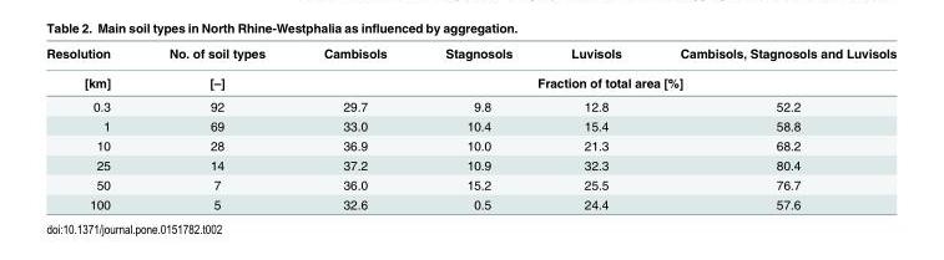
<table><thead><tr><td rowspan="2">Resolution [km]</td><td rowspan="2">No. of soil types [–]</td><td>Cambisols</td><td>Stagnosols</td><td>Luvisols</td><td>Cambisols, Stagnosols and Luvisols</td></tr><tr><td colspan="4">Fraction of total area [%]</td></tr></thead><tbody><tr><td>0.3</td><td>92</td><td>29.7</td><td>9.8</td><td>12.8</td><td>52.2</td></tr><tr><td>1</td><td>69</td><td>33.0</td><td>10.4</td><td>15.4</td><td>58.8</td></tr><tr><td>10</td><td>28</td><td>36.9</td><td>10.0</td><td>21.3</td><td>68.2</td></tr><tr><td>25</td><td>14</td><td>37.2</td><td>10.9</td><td>32.3</td><td>80.4</td></tr><tr><td>50</td><td>7</td><td>36.0</td><td>15.2</td><td>25.5</td><td>76.7</td></tr><tr><td>100</td><td>5</td><td>32.6</td><td>0.5</td><td>24.4</td><td>57.6</td></tr></tbody></table>